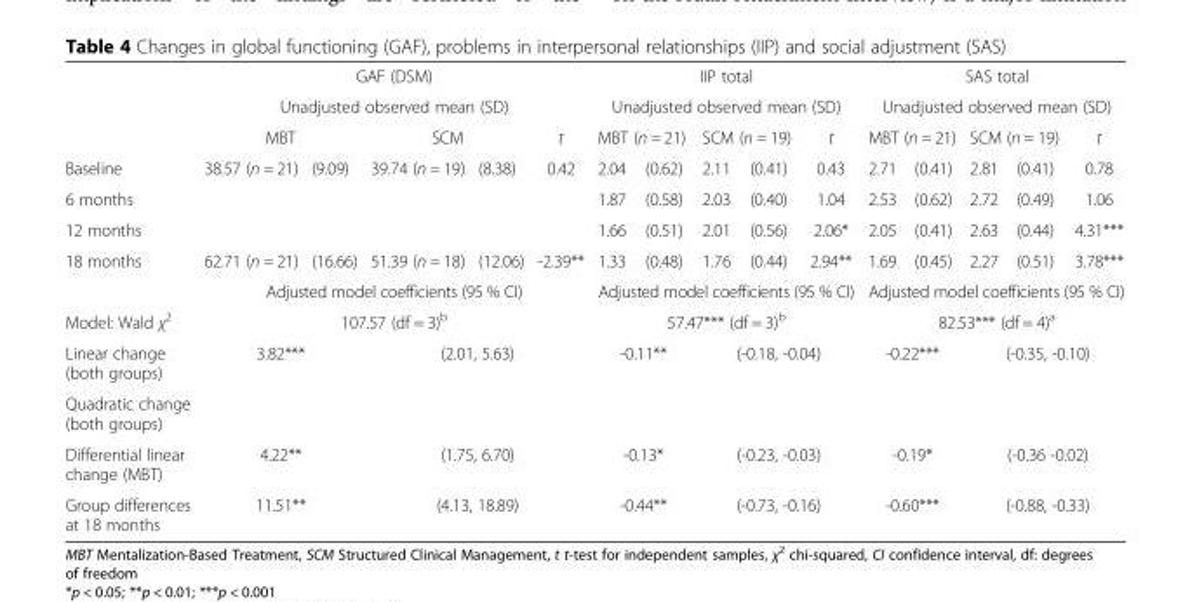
<table><thead><tr><td rowspan="4">Baseline</td><td rowspan="2" colspan="5">GAF (DSM) Unadjusted observed mean (SD)</td><td rowspan="2" colspan="5">IIP total Unadjusted observed mean (SD)</td><td rowspan="2" colspan="5">SAS total Unadjusted observed mean (SD)</td></tr><tr></tr><tr><td colspan="2">MBT</td><td colspan="2">SCM</td><td rowspan="2">t 0.42</td><td colspan="2">MBT (n = 21)</td><td colspan="2">SCM (n = 19)</td><td rowspan="2">t 0.43</td><td colspan="2">MBT (n = 21)</td><td colspan="2">SCM (n = 19)</td><td rowspan="2">t 0.78</td></tr><tr><td>38.57 (n = 21)</td><td>(9.09)</td><td>39.74 (n = 19)</td><td>(8.38)</td><td>2.04</td><td>(0.62)</td><td>2.11</td><td>(0.41)</td><td>2.71</td><td>(0.41)</td><td>2.81</td><td>(0.41)</td></tr></thead><tbody><tr><td>6 months</td><td></td><td></td><td></td><td></td><td></td><td>1.87</td><td>(0.58)</td><td>2.03</td><td>(0.40)</td><td>1.04</td><td>2.53</td><td>(0.62)</td><td>2.72</td><td>(0.49)</td><td>1.06</td></tr><tr><td>12 months</td><td></td><td></td><td></td><td></td><td></td><td>1.66</td><td>(0.51)</td><td>2.01</td><td>(0.56)</td><td>2.06*</td><td>2.05</td><td>(0.41)</td><td>2.63</td><td>(0.44)</td><td>4.31***</td></tr><tr><td rowspan="2">18 months</td><td>62.71 (n = 21)</td><td>(16.66)</td><td>51.39 (n = 18)</td><td>(12.06)</td><td>-2.39**</td><td>1.33</td><td>(0.48)</td><td>1.76</td><td>(0.44)</td><td>2.94**</td><td>1.69</td><td>(0.45)</td><td>2.27</td><td>(0.51)</td><td>3.78***</td></tr><tr><td colspan="5">Adjusted model coefficients (95 % CI)</td><td colspan="5">Adjusted model coefficients (95 % CI)</td><td colspan="5">Adjusted model coefficients (95 % CI)</td></tr><tr><td>Model: Wald χ<sup>2</sup></td><td colspan="5">107.57 (df = 3)<sup>b</sup></td><td colspan="5">57.47*** (df = 3)<sup>b</sup></td><td colspan="5">82.53*** (df = 4)<sup>a</sup></td></tr><tr><td>Linear change (both groups)</td><td colspan="2">3.82***</td><td colspan="3">(2.01, 5.63)</td><td colspan="2">-0.11**</td><td colspan="3">(-0.18, -0.04)</td><td colspan="2">-0.22***</td><td colspan="3">(-0.35, -0.10)</td></tr><tr><td colspan="16">Quadratic change (both groups)</td></tr><tr><td>Differential linear change (MBT)</td><td colspan="2">4.22**</td><td colspan="3">(1.75, 6.70)</td><td colspan="2">-0.13*</td><td colspan="3">(-0.23, -0.03)</td><td colspan="2">-0.19*</td><td colspan="3">(-0.36 -0.02)</td></tr><tr><td>Group differences at 18 months</td><td colspan="2">11.51**</td><td colspan="3">(4.13, 18.89)</td><td colspan="2">-0.44**</td><td colspan="3">(-0.73, -0.16)</td><td colspan="2">-0.60***</td><td colspan="3">(-0.88, -0.33)</td></tr></tbody></table>